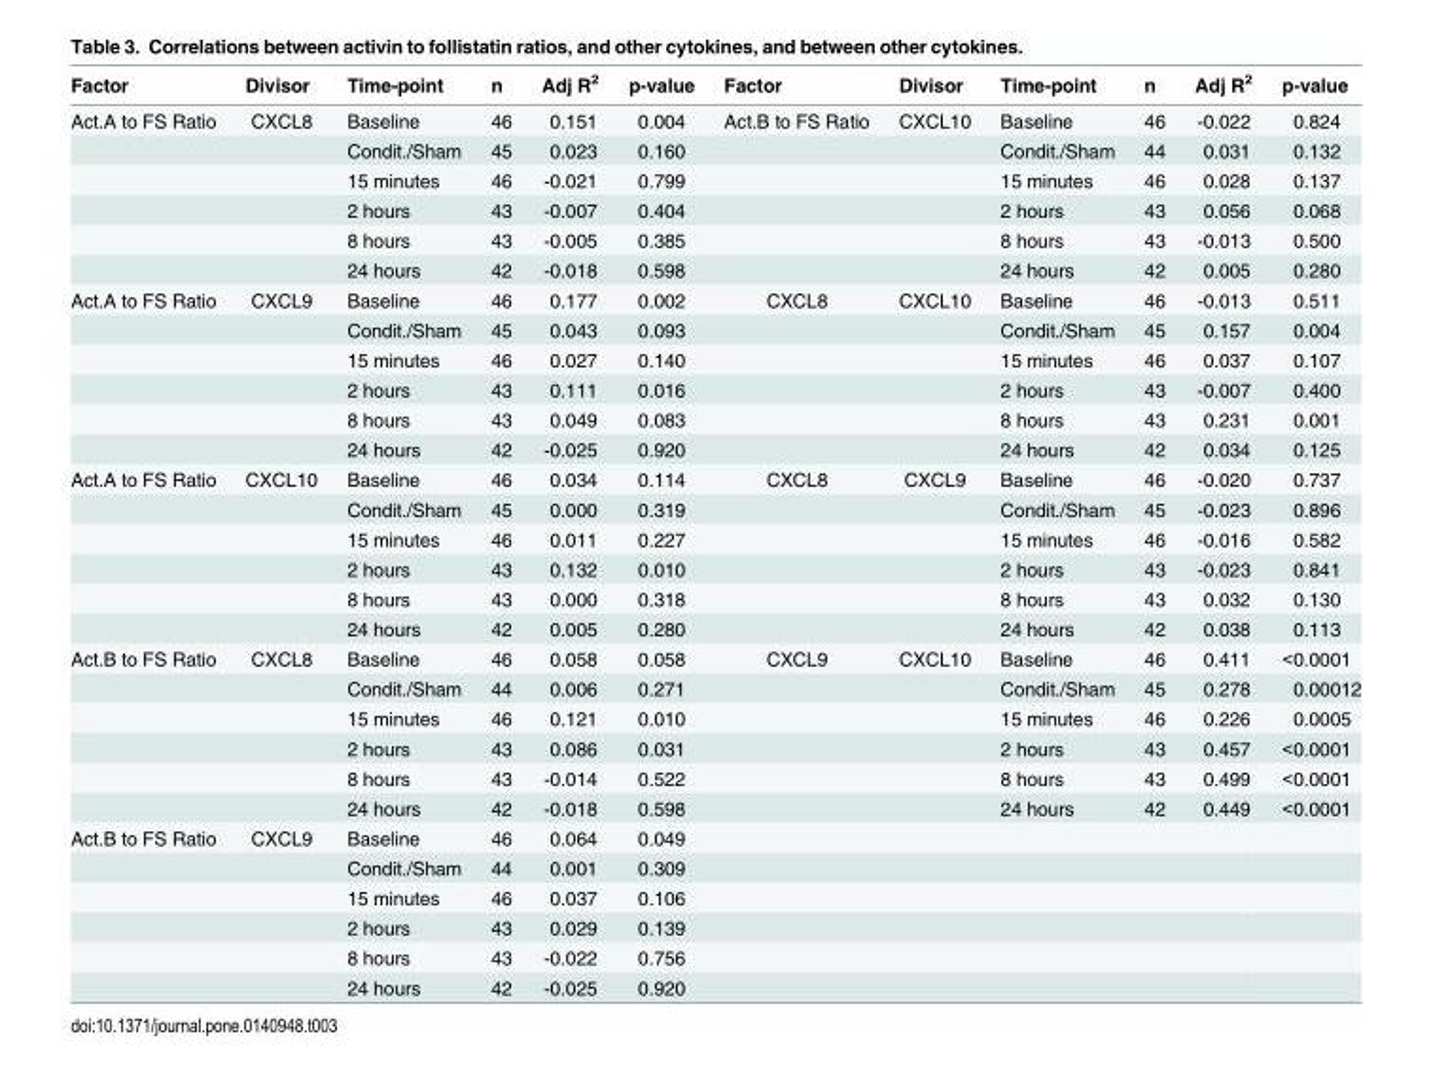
<table><thead><tr><td>Factor</td><td>Divisor</td><td>Time-point</td><td>n</td><td>Adj R<sup>2</sup></td><td>p-value</td><td>Factor</td><td>Divisor</td><td>Time-point</td><td>n</td><td>Adj R<sup>2</sup></td><td>p-value</td></tr></thead><tbody><tr><td rowspan="6">Act.A to FS Ratio</td><td>CXCL8</td><td>Baseline</td><td>46</td><td>0.151</td><td>0.004</td><td>Act.B to FS Ratio</td><td>CXCL10</td><td>Baseline</td><td>46</td><td>-0.022</td><td>0.824</td></tr><tr><td></td><td>Condit./Sham</td><td>45</td><td>0.023</td><td>0.160</td><td></td><td></td><td>Condit./Sham</td><td>44</td><td>0.031</td><td>0.132</td></tr><tr><td></td><td>15 minutes</td><td>46</td><td>-0.021</td><td>0.799</td><td></td><td></td><td>15 minutes</td><td>46</td><td>0.028</td><td>0.137</td></tr><tr><td></td><td>2 hours</td><td>43</td><td>-0.007</td><td>0.404</td><td></td><td></td><td>2 hours</td><td>43</td><td>0.056</td><td>0.068</td></tr><tr><td></td><td>8 hours</td><td>43</td><td>-0.005</td><td>0.385</td><td></td><td></td><td>8 hours</td><td>43</td><td>-0.013</td><td>0.500</td></tr><tr><td></td><td>24 hours</td><td>42</td><td>-0.018</td><td>0.598</td><td></td><td></td><td>24 hours</td><td>42</td><td>0.005</td><td>0.280</td></tr><tr><td rowspan="6">Act.A to FS Ratio</td><td>CXCL9</td><td>Baseline</td><td>46</td><td>0.177</td><td>0.002</td><td>CXCL8</td><td>CXCL10</td><td>Baseline</td><td>46</td><td>-0.013</td><td>0.511</td></tr><tr><td></td><td>Condit./Sham</td><td>45</td><td>0.043</td><td>0.093</td><td></td><td></td><td>Condit./Sham</td><td>45</td><td>0.157</td><td>0.004</td></tr><tr><td></td><td>15 minutes</td><td>46</td><td>0.027</td><td>0.140</td><td></td><td></td><td>15 minutes</td><td>46</td><td>0.037</td><td>0.107</td></tr><tr><td></td><td>2 hours</td><td>43</td><td>0.111</td><td>0.016</td><td></td><td></td><td>2 hours</td><td>43</td><td>-0.007</td><td>0.400</td></tr><tr><td></td><td>8 hours</td><td>43</td><td>0.049</td><td>0.083</td><td></td><td></td><td>8 hours</td><td>43</td><td>0.231</td><td>0.001</td></tr><tr><td></td><td>24 hours</td><td>42</td><td>-0.025</td><td>0.920</td><td></td><td></td><td>24 hours</td><td>42</td><td>0.034</td><td>0.125</td></tr><tr><td rowspan="6">Act.A to FS Ratio</td><td>CXCL10</td><td>Baseline</td><td>46</td><td>0.034</td><td>0.114</td><td>CXCL8</td><td>CXCL9</td><td>Baseline</td><td>46</td><td>-0.020</td><td>0.737</td></tr><tr><td></td><td>Condit./Sham</td><td>45</td><td>0.000</td><td>0.319</td><td></td><td></td><td>Condit./Sham</td><td>45</td><td>-0.023</td><td>0.896</td></tr><tr><td></td><td>15 minutes</td><td>46</td><td>0.011</td><td>0.227</td><td></td><td></td><td>15 minutes</td><td>46</td><td>-0.016</td><td>0.582</td></tr><tr><td></td><td>2 hours</td><td>43</td><td>0.132</td><td>0.010</td><td></td><td></td><td>2 hours</td><td>43</td><td>-0.023</td><td>0.841</td></tr><tr><td></td><td>8 hours</td><td>43</td><td>0.000</td><td>0.318</td><td></td><td></td><td>8 hours</td><td>43</td><td>0.032</td><td>0.130</td></tr><tr><td></td><td>24 hours</td><td>42</td><td>0.005</td><td>0.280</td><td></td><td></td><td>24 hours</td><td>42</td><td>0.038</td><td>0.113</td></tr><tr><td rowspan="6">Act.B to FS Ratio</td><td>CXCL8</td><td>Baseline</td><td>46</td><td>0.058</td><td>0.058</td><td>CXCL9</td><td>CXCL10</td><td>Baseline</td><td>46</td><td>0.411</td><td>&lt;0.0001</td></tr><tr><td></td><td>Condit./Sham</td><td>44</td><td>0.006</td><td>0.271</td><td></td><td></td><td>Condit./Sham</td><td>45</td><td>0.278</td><td>0.00012</td></tr><tr><td></td><td>15 minutes</td><td>46</td><td>0.121</td><td>0.010</td><td></td><td></td><td>15 minutes</td><td>46</td><td>0.226</td><td>0.0005</td></tr><tr><td></td><td>2 hours</td><td>43</td><td>0.086</td><td>0.031</td><td></td><td></td><td>2 hours</td><td>43</td><td>0.457</td><td>&lt;0.0001</td></tr><tr><td></td><td>8 hours</td><td>43</td><td>-0.014</td><td>0.522</td><td></td><td></td><td>8 hours</td><td>43</td><td>0.499</td><td>&lt;0.0001</td></tr><tr><td></td><td>24 hours</td><td>42</td><td>-0.018</td><td>0.598</td><td></td><td></td><td>24 hours</td><td>42</td><td>0.449</td><td>&lt;0.0001</td></tr><tr><td rowspan="6">Act.B to FS Ratio</td><td>CXCL9</td><td>Baseline</td><td>46</td><td>0.064</td><td>0.049</td><td></td><td></td><td></td><td></td><td></td><td></td></tr><tr><td></td><td>Condit./Sham</td><td>44</td><td>0.001</td><td>0.309</td><td></td><td></td><td></td><td></td><td></td><td></td></tr><tr><td></td><td>15 minutes</td><td>46</td><td>0.037</td><td>0.106</td><td></td><td></td><td></td><td></td><td></td><td></td></tr><tr><td></td><td>2 hours</td><td>43</td><td>0.029</td><td>0.139</td><td></td><td></td><td></td><td></td><td></td><td></td></tr><tr><td></td><td>8 hours</td><td>43</td><td>-0.022</td><td>0.756</td><td></td><td></td><td></td><td></td><td></td><td></td></tr><tr><td></td><td>24 hours</td><td>42</td><td>-0.025</td><td>0.920</td><td></td><td></td><td></td><td></td><td></td><td></td></tr></tbody></table>